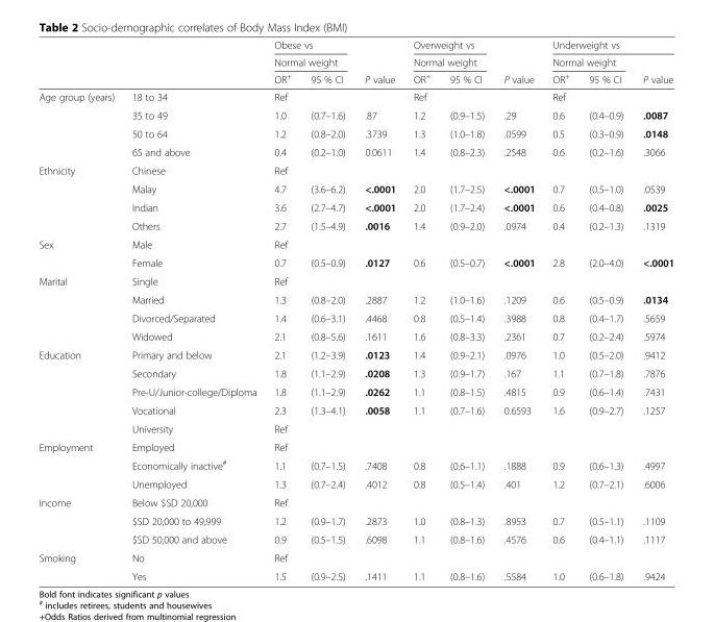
<table><thead><tr><td rowspan="3"></td><td rowspan="3"></td><td rowspan="2" colspan="2">Obese vs Normal weight</td><td rowspan="3">P value</td><td rowspan="2" colspan="2">Overweight vs Normal weight</td><td rowspan="3">P value</td><td colspan="3">Underweight vs</td></tr><tr><td colspan="2">Normal weight</td><td rowspan="2">P value</td></tr><tr><td>OR<sup>+</sup></td><td>95 % CI</td><td>OR<sup>+</sup></td><td>95 % CI</td><td>OR<sup>+</sup></td><td>95 % CI</td></tr></thead><tbody><tr><td rowspan="4">Age group (years)</td><td>18 to 34</td><td>Ref</td><td></td><td></td><td>Ref</td><td></td><td></td><td>Ref</td><td></td><td></td></tr><tr><td>35 to 49</td><td>1.0</td><td>(0.7–1.6)</td><td>.87</td><td>1.2</td><td>(0.9–1.5)</td><td>.29</td><td>0.6</td><td>(0.4–0.9)</td><td>.0087</td></tr><tr><td>50 to 64</td><td>1.2</td><td>(0.8–2.0)</td><td>.3739</td><td>1.3</td><td>(1.0–1.8)</td><td>.0599</td><td>0.5</td><td>(0.3–0.9)</td><td>.0148</td></tr><tr><td>65 and above</td><td>0.4</td><td>(0.2–1.0)</td><td>0.0611</td><td>1.4</td><td>(0.8–2.3)</td><td>.2548</td><td>0.6</td><td>(0.2–1.6)</td><td>.3066</td></tr><tr><td rowspan="4">Ethnicity</td><td>Chinese</td><td>Ref</td><td></td><td></td><td></td><td></td><td></td><td></td><td></td><td></td></tr><tr><td>Malay</td><td>4.7</td><td>(3.6–6.2)</td><td>&lt;.0001</td><td>2.0</td><td>(1.7–2.5)</td><td>&lt;.0001</td><td>0.7</td><td>(0.5–1.0)</td><td>.0539</td></tr><tr><td>Indian</td><td>3.6</td><td>(2.7–4.7)</td><td>&lt;.0001</td><td>2.0</td><td>(1.7–2.4)</td><td>&lt;.0001</td><td>0.6</td><td>(0.4–0.8)</td><td>.0025</td></tr><tr><td>Others</td><td>2.7</td><td>(1.5–4.9)</td><td>.0016</td><td>1.4</td><td>(0.9–2.0)</td><td>.0974</td><td>0.4</td><td>(0.2–1.3)</td><td>.1319</td></tr><tr><td rowspan="2">Sex</td><td>Male</td><td>Ref</td><td></td><td></td><td></td><td></td><td></td><td></td><td></td><td></td></tr><tr><td>Female</td><td>0.7</td><td>(0.5–0.9)</td><td>.0127</td><td>0.6</td><td>(0.5–0.7)</td><td>&lt;.0001</td><td>2.8</td><td>(2.0–4.0)</td><td>&lt;.0001</td></tr><tr><td rowspan="4">Marital</td><td>Single</td><td>Ref</td><td></td><td></td><td></td><td></td><td></td><td></td><td></td><td></td></tr><tr><td>Married</td><td>1.3</td><td>(0.8–2.0)</td><td>.2887</td><td>1.2</td><td>(1.0–1.6)</td><td>.1209</td><td>0.6</td><td>(0.5–0.9)</td><td>.0134</td></tr><tr><td>Divorced/Separated</td><td>1.4</td><td>(0.6–3.1)</td><td>.4468</td><td>0.8</td><td>(0.5–1.4)</td><td>.3988</td><td>0.8</td><td>(0.4–1.7)</td><td>.5659</td></tr><tr><td>Widowed</td><td>2.1</td><td>(0.8–5.6)</td><td>.1611</td><td>1.6</td><td>(0.8–3.3)</td><td>.2361</td><td>0.7</td><td>(0.2–2.4)</td><td>.5974</td></tr><tr><td rowspan="5">Education</td><td>Primary and below</td><td>2.1</td><td>(1.2–3.9)</td><td>.0123</td><td>1.4</td><td>(0.9–2.1)</td><td>.0976</td><td>1.0</td><td>(0.5–2.0)</td><td>.9412</td></tr><tr><td>Secondary</td><td>1.8</td><td>(1.1–2.9)</td><td>.0208</td><td>1.3</td><td>(0.9–1.7)</td><td>.167</td><td>1.1</td><td>(0.7–1.8)</td><td>.7876</td></tr><tr><td>Pre-U/Junior-college/Diploma</td><td>1.8</td><td>(1.1–2.9)</td><td>.0262</td><td>1.1</td><td>(0.8–1.5)</td><td>.4815</td><td>0.9</td><td>(0.6–1.4)</td><td>.7431</td></tr><tr><td>Vocational</td><td>2.3</td><td>(1.3–4.1)</td><td>.0058</td><td>1.1</td><td>(0.7–1.6)</td><td>0.6593</td><td>1.6</td><td>(0.9–2.7)</td><td>.1257</td></tr><tr><td>University</td><td>Ref</td><td></td><td></td><td></td><td></td><td></td><td></td><td></td><td></td></tr><tr><td rowspan="3">Employment</td><td>Employed</td><td>Ref</td><td></td><td></td><td></td><td></td><td></td><td></td><td></td><td></td></tr><tr><td>Economically inactive<sup>#</sup></td><td>1.1</td><td>(0.7–1.5)</td><td>.7408</td><td>0.8</td><td>(0.6–1.1)</td><td>.1888</td><td>0.9</td><td>(0.6–1.3)</td><td>.4997</td></tr><tr><td>Unemployed</td><td>1.3</td><td>(0.7–2.4)</td><td>.4012</td><td>0.8</td><td>(0.5–1.4)</td><td>.401</td><td>1.2</td><td>(0.7–2.1)</td><td>.6006</td></tr><tr><td rowspan="3">Income</td><td>Below $SD 20,000</td><td>Ref</td><td></td><td></td><td></td><td></td><td></td><td></td><td></td><td></td></tr><tr><td>$SD 20,000 to 49,999</td><td>1.2</td><td>(0.9–1.7)</td><td>.2873</td><td>1.0</td><td>(0.8–1.3)</td><td>.8953</td><td>0.7</td><td>(0.5–1.1)</td><td>.1109</td></tr><tr><td>$SD 50,000 and above</td><td>0.9</td><td>(0.5–1.5)</td><td>.6098</td><td>1.1</td><td>(0.8–1.6)</td><td>.4576</td><td>0.6</td><td>(0.4–1.1)</td><td>.1117</td></tr><tr><td rowspan="2">Smoking</td><td>No</td><td>Ref</td><td></td><td></td><td></td><td></td><td></td><td></td><td></td><td></td></tr><tr><td>Yes</td><td>1.5</td><td>(0.9–2.5)</td><td>.1411</td><td>1.1</td><td>(0.8–1.6)</td><td>.5584</td><td>1.0</td><td>(0.6–1.8)</td><td>.9424</td></tr></tbody></table>